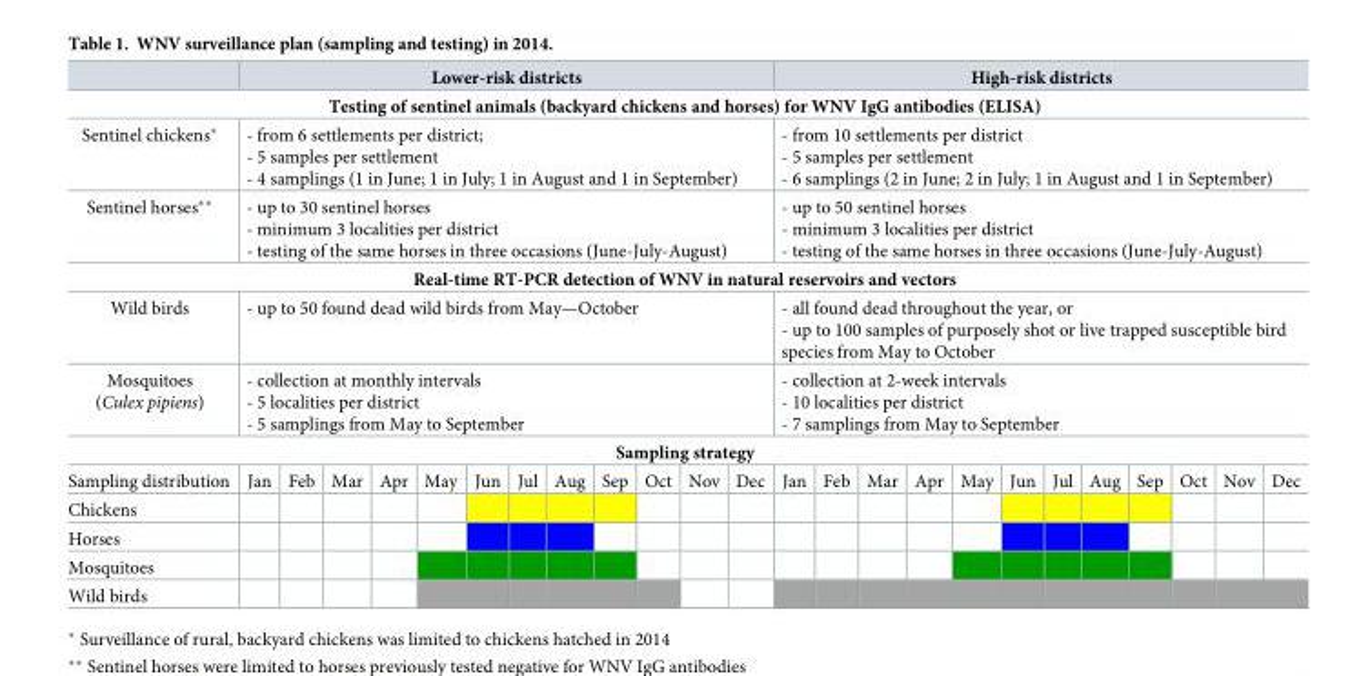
<table><thead><tr><td></td><td colspan="12">Lower-risk districts</td><td colspan="12">High-risk districts</td></tr></thead><tbody><tr><td colspan="25">Testing of sentinel animals (backyard chickens and horses) for WNV IgG antibodies (ELISA)</td></tr><tr><td>Sentinel chickens*</td><td colspan="12">- from 6 settlements per district; - 5 samples per settlement - 4 samplings (1 in June; 1 in July; 1 in August and 1 in September)</td><td colspan="12">- from 10 settlements per district - 5 samples per settlement - 6 samplings (2 in June; 2 in July; 1 in August and 1 in September)</td></tr><tr><td>Sentinel horses**</td><td colspan="12">- up to 30 sentinel horses - minimum 3 localities per district - testing of the same horses in three occasions (June-July-August)</td><td colspan="12">- up to 50 sentinel horses - minimum 3 localities per district - testing of the same horses in three occasions (June-July-August)</td></tr><tr><td colspan="25">Real-time RT-PCR detection of WNV in natural reservoirs and vectors</td></tr><tr><td>Wild birds</td><td colspan="12">- up to 50 found dead wild birds from May—October</td><td colspan="12">- all found dead throughout the year, or - up to 100 samples of purposely shot or live trapped susceptible bird species from May to October</td></tr><tr><td>Mosquitoes (Culex pipiens)</td><td colspan="12">- collection at monthly intervals - 5 localities per district - 5 samplings from May to September</td><td colspan="12">- collection at 2-week intervals - 10 localities per district - 7 samplings from May to September</td></tr><tr><td colspan="25">Sampling strategy</td></tr><tr><td>Sampling distribution</td><td>Jan</td><td>Feb</td><td>Mar</td><td>Apr</td><td>May</td><td>Jun</td><td>Jul</td><td>Aug</td><td>Sep</td><td>Oct</td><td>Nov</td><td>Dec</td><td>Jan</td><td>Feb</td><td>Mar</td><td>Apr</td><td>May</td><td>Jun</td><td>Jul</td><td>Aug</td><td>Sep</td><td>Oct</td><td>Nov</td><td>Dec</td></tr><tr><td colspan="25">Chickens</td></tr><tr><td colspan="25">Horses</td></tr><tr><td colspan="25">Mosquitoes</td></tr><tr><td>Wild birds</td><td></td><td></td><td></td><td></td><td></td><td></td><td></td><td></td><td></td><td></td><td></td><td></td><td></td><td></td><td></td><td></td><td></td><td></td><td></td><td></td><td></td><td></td><td></td><td></td></tr></tbody></table>